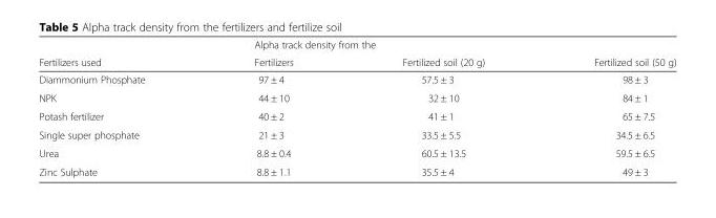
<table><thead><tr><td rowspan="2">Fertilizers used</td><td colspan="3">Alpha track density from the</td></tr><tr><td>Fertilizers</td><td>Fertilized soil (20 g)</td><td>Fertilized soil (50 g)</td></tr></thead><tbody><tr><td>Diammonium Phosphate</td><td>97 ± 4</td><td>57.5 ± 3</td><td>98 ± 3</td></tr><tr><td>NPK</td><td>44 ± 10</td><td>32 ± 10</td><td>84 ± 1</td></tr><tr><td>Potash fertilizer</td><td>40 ± 2</td><td>41 ± 1</td><td>65 ± 7.5</td></tr><tr><td>Single super phosphate</td><td>21 ± 3</td><td>33.5 ± 5.5</td><td>34.5 ± 6.5</td></tr><tr><td>Urea</td><td>8.8 ± 0.4</td><td>60.5 ± 13.5</td><td>59.5 ± 6.5</td></tr><tr><td>Zinc Sulphate</td><td>8.8 ± 1.1</td><td>35.5 ± 4</td><td>49 ± 3</td></tr></tbody></table>